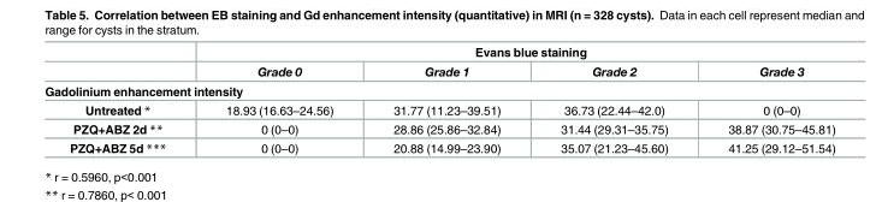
<table><thead><tr><td rowspan="2"></td><td colspan="4">Evans blue staining</td></tr><tr><td>Grade 0</td><td>Grade 1</td><td>Grade 2</td><td>Grade 3</td></tr></thead><tbody><tr><td colspan="5">Gadolinium enhancement intensity</td></tr><tr><td>Untreated *</td><td>18.93 (16.63–24.56)</td><td>31.77 (11.23–39.51)</td><td>36.73 (22.44–42.0)</td><td>0 (0–0)</td></tr><tr><td>PZQ+ABZ 2d **</td><td>0 (0–0)</td><td>28.86 (25.86–32.84)</td><td>31.44 (29.31–35.75)</td><td>38.87 (30.75–45.81)</td></tr><tr><td>PZQ+ABZ 5d ***</td><td>0 (0–0)</td><td>20.88 (14.99–23.90)</td><td>35.07 (21.23–45.60)</td><td>41.25 (29.12–51.54)</td></tr></tbody></table>